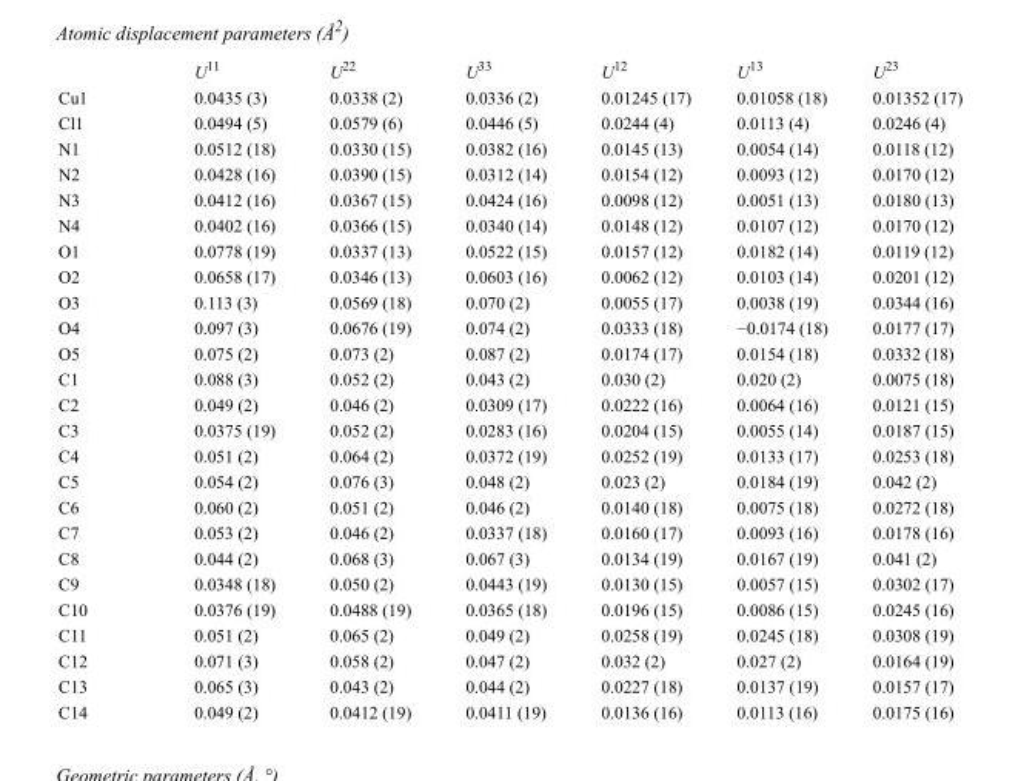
<table><thead><tr><td></td><td>U<sup>11</sup></td><td>U<sup>22</sup></td><td>U<sup>33</sup></td><td>U<sup>12</sup></td><td>U<sup>13</sup></td><td>U<sup>23</sup></td></tr></thead><tbody><tr><td>Cu1</td><td>0.0435 (3)</td><td>0.0338 (2)</td><td>0.0336 (2)</td><td>0.01245 (17)</td><td>0.01058 (18)</td><td>0.01352 (17)</td></tr><tr><td>Cl1</td><td>0.0494 (5)</td><td>0.0579 (6)</td><td>0.0446 (5)</td><td>0.0244 (4)</td><td>0.0113 (4)</td><td>0.0246 (4)</td></tr><tr><td>N1</td><td>0.0512 (18)</td><td>0.0330 (15)</td><td>0.0382 (16)</td><td>0.0145 (13)</td><td>0.0054 (14)</td><td>0.0118 (12)</td></tr><tr><td>N2</td><td>0.0428 (16)</td><td>0.0390 (15)</td><td>0.0312 (14)</td><td>0.0154 (12)</td><td>0.0093 (12)</td><td>0.0170 (12)</td></tr><tr><td>N3</td><td>0.0412 (16)</td><td>0.0367 (15)</td><td>0.0424 (16)</td><td>0.0098 (12)</td><td>0.0051 (13)</td><td>0.0180 (13)</td></tr><tr><td>N4</td><td>0.0402 (16)</td><td>0.0366 (15)</td><td>0.0340 (14)</td><td>0.0148 (12)</td><td>0.0107 (12)</td><td>0.0170 (12)</td></tr><tr><td>O1</td><td>0.0778 (19)</td><td>0.0337 (13)</td><td>0.0522 (15)</td><td>0.0157 (12)</td><td>0.0182 (14)</td><td>0.0119 (12)</td></tr><tr><td>O2</td><td>0.0658 (17)</td><td>0.0346 (13)</td><td>0.0603 (16)</td><td>0.0062 (12)</td><td>0.0103 (14)</td><td>0.0201 (12)</td></tr><tr><td>O3</td><td>0.113 (3)</td><td>0.0569 (18)</td><td>0.070 (2)</td><td>0.0055 (17)</td><td>0.0038 (19)</td><td>0.0344 (16)</td></tr><tr><td>O4</td><td>0.097 (3)</td><td>0.0676 (19)</td><td>0.074 (2)</td><td>0.0333 (18)</td><td>−0.0174 (18)</td><td>0.0177 (17)</td></tr><tr><td>O5</td><td>0.075 (2)</td><td>0.073 (2)</td><td>0.087 (2)</td><td>0.0174 (17)</td><td>0.0154 (18)</td><td>0.0332 (18)</td></tr><tr><td>C1</td><td>0.088 (3)</td><td>0.052 (2)</td><td>0.043 (2)</td><td>0.030 (2)</td><td>0.020 (2)</td><td>0.0075 (18)</td></tr><tr><td>C2</td><td>0.049 (2)</td><td>0.046 (2)</td><td>0.0309 (17)</td><td>0.0222 (16)</td><td>0.0064 (16)</td><td>0.0121 (15)</td></tr><tr><td>C3</td><td>0.0375 (19)</td><td>0.052 (2)</td><td>0.0283 (16)</td><td>0.0204 (15)</td><td>0.0055 (14)</td><td>0.0187 (15)</td></tr><tr><td>C4</td><td>0.051 (2)</td><td>0.064 (2)</td><td>0.0372 (19)</td><td>0.0252 (19)</td><td>0.0133 (17)</td><td>0.0253 (18)</td></tr><tr><td>C5</td><td>0.054 (2)</td><td>0.076 (3)</td><td>0.048 (2)</td><td>0.023 (2)</td><td>0.0184 (19)</td><td>0.042 (2)</td></tr><tr><td>C6</td><td>0.060 (2)</td><td>0.051 (2)</td><td>0.046 (2)</td><td>0.0140 (18)</td><td>0.0075 (18)</td><td>0.0272 (18)</td></tr><tr><td>C7</td><td>0.053 (2)</td><td>0.046 (2)</td><td>0.0337 (18)</td><td>0.0160 (17)</td><td>0.0093 (16)</td><td>0.0178 (16)</td></tr><tr><td>C8</td><td>0.044 (2)</td><td>0.068 (3)</td><td>0.067 (3)</td><td>0.0134 (19)</td><td>0.0167 (19)</td><td>0.041 (2)</td></tr><tr><td>C9</td><td>0.0348 (18)</td><td>0.050 (2)</td><td>0.0443 (19)</td><td>0.0130 (15)</td><td>0.0057 (15)</td><td>0.0302 (17)</td></tr><tr><td>C10</td><td>0.0376 (19)</td><td>0.0488 (19)</td><td>0.0365 (18)</td><td>0.0196 (15)</td><td>0.0086 (15)</td><td>0.0245 (16)</td></tr><tr><td>C11</td><td>0.051 (2)</td><td>0.065 (2)</td><td>0.049 (2)</td><td>0.0258 (19)</td><td>0.0245 (18)</td><td>0.0308 (19)</td></tr><tr><td>C12</td><td>0.071 (3)</td><td>0.058 (2)</td><td>0.047 (2)</td><td>0.032 (2)</td><td>0.027 (2)</td><td>0.0164 (19)</td></tr><tr><td>C13</td><td>0.065 (3)</td><td>0.043 (2)</td><td>0.044 (2)</td><td>0.0227 (18)</td><td>0.0137 (19)</td><td>0.0157 (17)</td></tr><tr><td>C14</td><td>0.049 (2)</td><td>0.0412 (19)</td><td>0.0411 (19)</td><td>0.0136 (16)</td><td>0.0113 (16)</td><td>0.0175 (16)</td></tr></tbody></table>